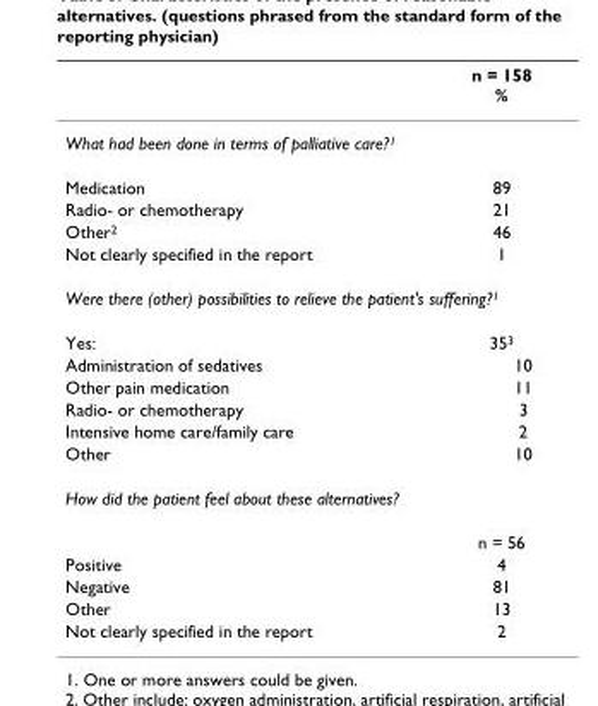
<table><thead><tr><td></td><td>n = 158 %</td></tr></thead><tbody><tr><td colspan="2">What had been done in terms of palliative care?<sup>1</sup></td></tr><tr><td>Medication</td><td>89</td></tr><tr><td>Radio- or chemotherapy</td><td>21</td></tr><tr><td>Other<sup>2</sup></td><td>46</td></tr><tr><td>Not clearly specified in the report</td><td>1</td></tr><tr><td colspan="2">Were there (other) possibilities to relieve the patient&#x27;s suffering?<sup>1</sup></td></tr><tr><td>Yes:</td><td>35<sup>3</sup></td></tr><tr><td>Administration of sedatives</td><td>10</td></tr><tr><td>Other pain medication</td><td>11</td></tr><tr><td>Radio- or chemotherapy</td><td>3</td></tr><tr><td>Intensive home care/family care</td><td>2</td></tr><tr><td>Other</td><td>10</td></tr><tr><td colspan="2">How did the patient feel about these alternatives?</td></tr><tr><td></td><td>n = 56</td></tr><tr><td>Positive</td><td>4</td></tr><tr><td>Negative</td><td>81</td></tr><tr><td>Other</td><td>13</td></tr><tr><td>Not clearly specified in the report</td><td>2</td></tr></tbody></table>